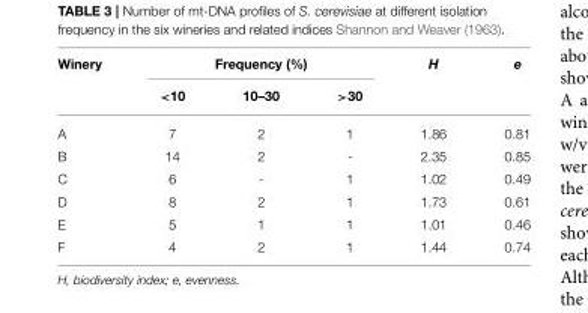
<table><thead><tr><td rowspan="2">Winery</td><td colspan="3">Frequency (%)</td><td rowspan="2">H</td><td rowspan="2">e</td></tr><tr><td>&lt;10</td><td>10–30</td><td>&gt;30</td></tr></thead><tbody><tr><td>A</td><td>7</td><td>2</td><td>1</td><td>1.86</td><td>0.81</td></tr><tr><td>B</td><td>14</td><td>2</td><td>-</td><td>2.35</td><td>0.85</td></tr><tr><td>C</td><td>6</td><td>-</td><td>1</td><td>1.02</td><td>0.49</td></tr><tr><td>D</td><td>8</td><td>2</td><td>1</td><td>1.73</td><td>0.61</td></tr><tr><td>E</td><td>5</td><td>1</td><td>1</td><td>1.01</td><td>0.46</td></tr><tr><td>F</td><td>4</td><td>2</td><td>1</td><td>1.44</td><td>0.74</td></tr></tbody></table>